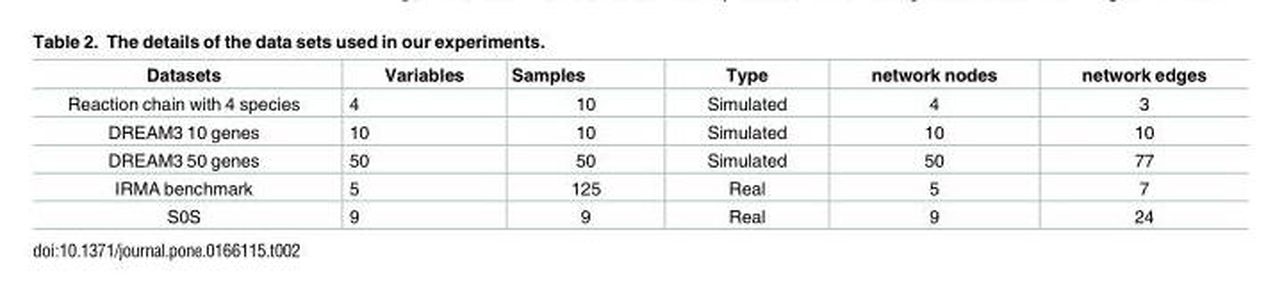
<table><thead><tr><td>Datasets</td><td>Variables</td><td>Samples</td><td>Type</td><td>network nodes</td><td>network edges</td></tr></thead><tbody><tr><td>Reaction chain with 4 species</td><td>4</td><td>10</td><td>Simulated</td><td>4</td><td>3</td></tr><tr><td>DREAM3 10 genes</td><td>10</td><td>10</td><td>Simulated</td><td>10</td><td>10</td></tr><tr><td>DREAM3 50 genes</td><td>50</td><td>50</td><td>Simulated</td><td>50</td><td>77</td></tr><tr><td>IRMA benchmark</td><td>5</td><td>125</td><td>Real</td><td>5</td><td>7</td></tr><tr><td>S0S</td><td>9</td><td>9</td><td>Real</td><td>9</td><td>24</td></tr></tbody></table>